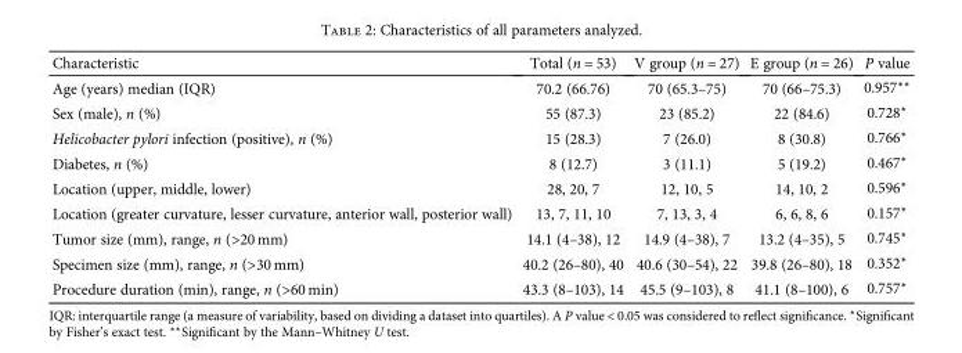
<table><thead><tr><td>Characteristic</td><td>Total (n = 53)</td><td>V group (n = 27)</td><td>E group (n = 26)</td><td>P value</td></tr></thead><tbody><tr><td>Age (years) median (IQR)</td><td>70.2 (66.76)</td><td>70 (65.3–75)</td><td>70 (66–75.3)</td><td>0.957∗∗</td></tr><tr><td>Sex (male), n (%)</td><td>55 (87.3)</td><td>23 (85.2)</td><td>22 (84.6)</td><td>0.728∗</td></tr><tr><td>Helicobacter pylori infection (positive), n (%)</td><td>15 (28.3)</td><td>7 (26.0)</td><td>8 (30.8)</td><td>0.766∗</td></tr><tr><td>Diabetes, n (%)</td><td>8 (12.7)</td><td>3 (11.1)</td><td>5 (19.2)</td><td>0.467∗</td></tr><tr><td>Location (upper, middle, lower)</td><td>28, 20, 7</td><td>12, 10, 5</td><td>14, 10, 2</td><td>0.596∗</td></tr><tr><td>Location (greater curvature, lesser curvature, anterior wall, posterior wall)</td><td>13, 7, 11, 10</td><td>7, 13, 3, 4</td><td>6, 6, 8, 6</td><td>0.157∗</td></tr><tr><td>Tumor size (mm), range, n (&gt;20 mm)</td><td>14.1 (4–38), 12</td><td>14.9 (4–38), 7</td><td>13.2 (4–35), 5</td><td>0.745∗</td></tr><tr><td>Specimen size (mm), range, n (&gt;30 mm)</td><td>40.2 (26–80), 40</td><td>40.6 (30–54), 22</td><td>39.8 (26–80), 18</td><td>0.352∗</td></tr><tr><td>Procedure duration (min), range, n (&gt;60 min)</td><td>43.3 (8–103), 14</td><td>45.5 (9–103), 8</td><td>41.1 (8–100), 6</td><td>0.757∗</td></tr></tbody></table>